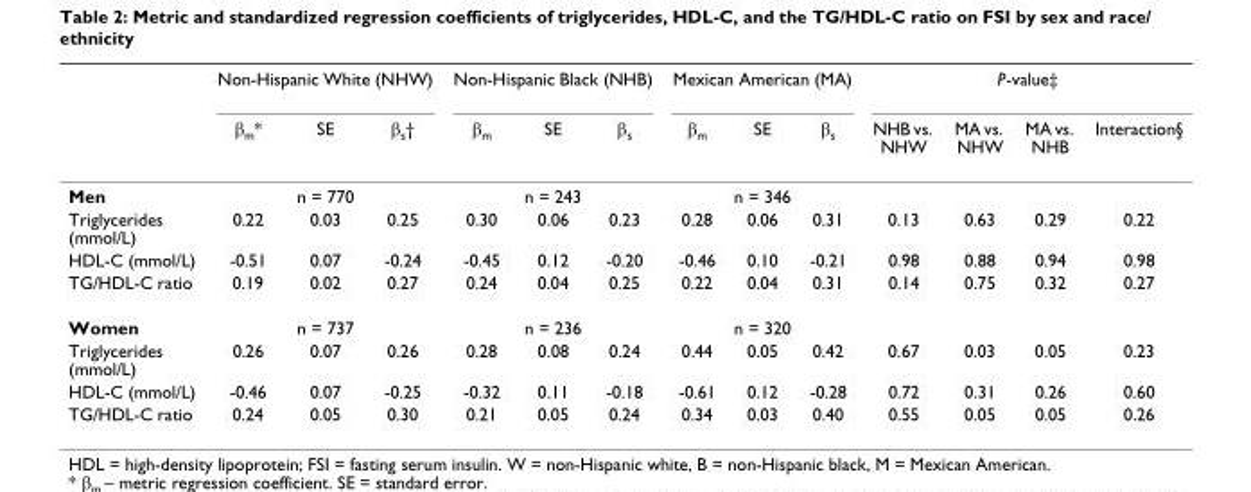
<table><thead><tr><td rowspan="2"></td><td colspan="3">Non-Hispanic White (NHW)</td><td colspan="3">Non-Hispanic Black (NHB)</td><td colspan="3">Mexican American (MA)</td><td colspan="4">P-value‡</td></tr><tr><td>β<sub>m</sub>*</td><td>SE</td><td>β<sub>s</sub>†</td><td>β<sub>m</sub></td><td>SE</td><td>β<sub>s</sub></td><td>β<sub>m</sub></td><td>SE</td><td>β<sub>s</sub></td><td>NHB vs. NHW</td><td>MA vs. NHW</td><td>MA vs. NHB</td><td>Interaction§</td></tr></thead><tbody><tr><td>Men</td><td colspan="3">n = 770</td><td colspan="3">n = 243</td><td colspan="3">n = 346</td><td></td><td></td><td></td><td></td></tr><tr><td>Triglycerides (mmol/L)</td><td>0.22</td><td>0.03</td><td>0.25</td><td>0.30</td><td>0.06</td><td>0.23</td><td>0.28</td><td>0.06</td><td>0.31</td><td>0.13</td><td>0.63</td><td>0.29</td><td>0.22</td></tr><tr><td>HDL-C (mmol/L)</td><td>-0.51</td><td>0.07</td><td>-0.24</td><td>-0.45</td><td>0.12</td><td>-0.20</td><td>-0.46</td><td>0.10</td><td>-0.21</td><td>0.98</td><td>0.88</td><td>0.94</td><td>0.98</td></tr><tr><td>TG/HDL-C ratio</td><td>0.19</td><td>0.02</td><td>0.27</td><td>0.24</td><td>0.04</td><td>0.25</td><td>0.22</td><td>0.04</td><td>0.31</td><td>0.14</td><td>0.75</td><td>0.32</td><td>0.27</td></tr><tr><td>Women</td><td colspan="3">n = 737</td><td colspan="3">n = 236</td><td colspan="3">n = 320</td><td></td><td></td><td></td><td></td></tr><tr><td>Triglycerides (mmol/L)</td><td>0.26</td><td>0.07</td><td>0.26</td><td>0.28</td><td>0.08</td><td>0.24</td><td>0.44</td><td>0.05</td><td>0.42</td><td>0.67</td><td>0.03</td><td>0.05</td><td>0.23</td></tr><tr><td>HDL-C (mmol/L)</td><td>-0.46</td><td>0.07</td><td>-0.25</td><td>-0.32</td><td>0.11</td><td>-0.18</td><td>-0.61</td><td>0.12</td><td>-0.28</td><td>0.72</td><td>0.31</td><td>0.26</td><td>0.60</td></tr><tr><td>TG/HDL-C ratio</td><td>0.24</td><td>0.05</td><td>0.30</td><td>0.21</td><td>0.05</td><td>0.24</td><td>0.34</td><td>0.03</td><td>0.40</td><td>0.55</td><td>0.05</td><td>0.05</td><td>0.26</td></tr></tbody></table>